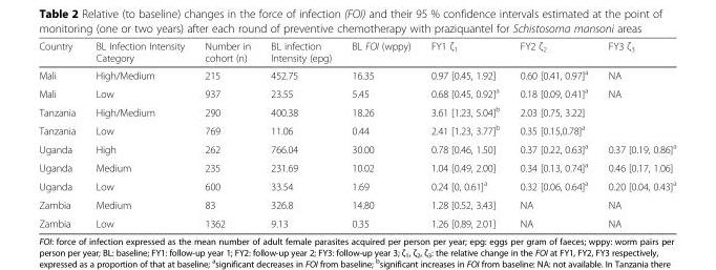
<table><thead><tr><td>Country</td><td>BL Infection Intensity Category</td><td>Number in cohort (n)</td><td>BL infection Intensity (epg)</td><td>BL FOI (wppy)</td><td>FY1 ζ<sub>1</sub></td><td>FY2 ζ<sub>2</sub></td><td>FY3 ζ<sub>3</sub></td></tr></thead><tbody><tr><td>Mali</td><td>High/Medium</td><td>215</td><td>452.75</td><td>16.35</td><td>0.97 [0.45, 1.92]</td><td>0.60 [0.41, 0.97]<sup>a</sup></td><td>NA</td></tr><tr><td>Mali</td><td>Low</td><td>937</td><td>23.55</td><td>5.45</td><td>0.68 [0.45, 0.92]<sup>a</sup></td><td>0.18 [0.09, 0.41]<sup>a</sup></td><td>NA</td></tr><tr><td>Tanzania</td><td>High/Medium</td><td>290</td><td>400.38</td><td>18.26</td><td>3.61 [1.23, 5.04]<sup>b</sup></td><td colspan="2">2.03 [0.75, 3.22]</td></tr><tr><td>Tanzania</td><td>Low</td><td>769</td><td>11.06</td><td>0.44</td><td>2.41 [1.23, 3.77]<sup>b</sup></td><td colspan="2">0.35 [0.15,0.78]<sup>a</sup></td></tr><tr><td>Uganda</td><td>High</td><td>262</td><td>766.04</td><td>30.00</td><td>0.78 [0.46, 1.50]</td><td>0.37 [0.22, 0.63]<sup>a</sup></td><td>0.37 [0.19, 0.86]<sup>a</sup></td></tr><tr><td>Uganda</td><td>Medium</td><td>235</td><td>231.69</td><td>10.02</td><td>1.04 [0.49, 2.00]</td><td>0.34 [0.13, 0.74]<sup>a</sup></td><td>0.46 [0.17, 1.06]</td></tr><tr><td>Uganda</td><td>Low</td><td>600</td><td>33.54</td><td>1.69</td><td>0.24 [0, 0.61]<sup>a</sup></td><td>0.32 [0.06, 0.64]<sup>a</sup></td><td>0.20 [0.04, 0.43]<sup>a</sup></td></tr><tr><td>Zambia</td><td>Medium</td><td>83</td><td>326.8</td><td>14.80</td><td>1.28 [0.52, 3.43]</td><td>NA</td><td>NA</td></tr><tr><td>Zambia</td><td>Low</td><td>1362</td><td>9.13</td><td>0.35</td><td>1.26 [0.89, 2.01]</td><td>NA</td><td>NA</td></tr></tbody></table>